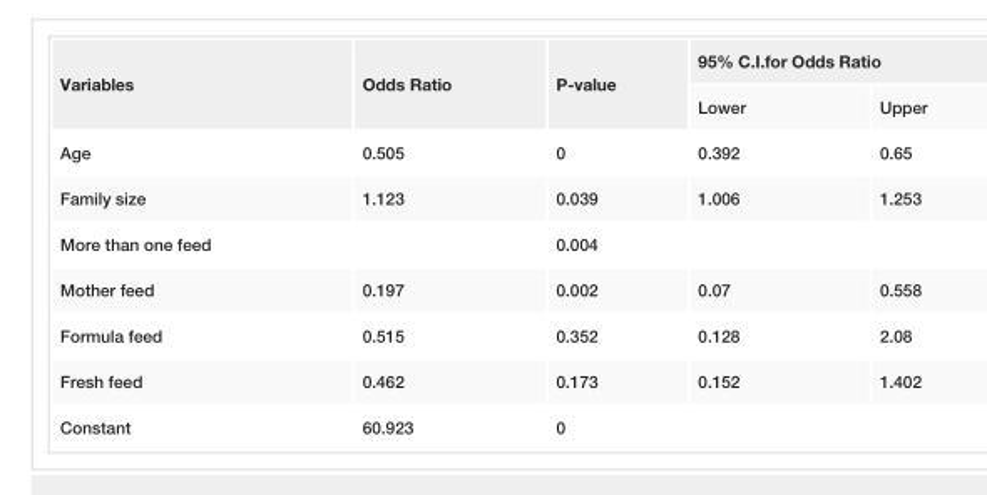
<table><tbody><tr><td rowspan="2">Variables</td><td rowspan="2">Odds Ratio</td><td rowspan="2">P-value</td><td colspan="2">95% C.I.for Odds Ratio</td></tr><tr><td>Lower</td><td>Upper</td></tr><tr><td>Age</td><td>0.505</td><td>0</td><td>0.392</td><td>0.65</td></tr><tr><td>Family size</td><td>1.123</td><td>0.039</td><td>1.006</td><td>1.253</td></tr><tr><td>More than one feed</td><td></td><td>0.004</td><td></td><td></td></tr><tr><td>Mother feed</td><td>0.197</td><td>0.002</td><td>0.07</td><td>0.558</td></tr><tr><td>Formula feed</td><td>0.515</td><td>0.352</td><td>0.128</td><td>2.08</td></tr><tr><td>Fresh feed</td><td>0.462</td><td>0.173</td><td>0.152</td><td>1.402</td></tr><tr><td>Constant</td><td>60.923</td><td>0</td><td></td><td></td></tr></tbody></table>